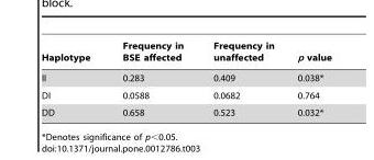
<table><thead><tr><td>Haplotype</td><td>Frequency in BSE affected</td><td>Frequency in unaffected</td><td>p value</td></tr></thead><tbody><tr><td>II</td><td>0.283</td><td>0.409</td><td>0.038*</td></tr><tr><td>DI</td><td>0.0588</td><td>0.0682</td><td>0.764</td></tr><tr><td>DD</td><td>0.658</td><td>0.523</td><td>0.032*</td></tr></tbody></table>